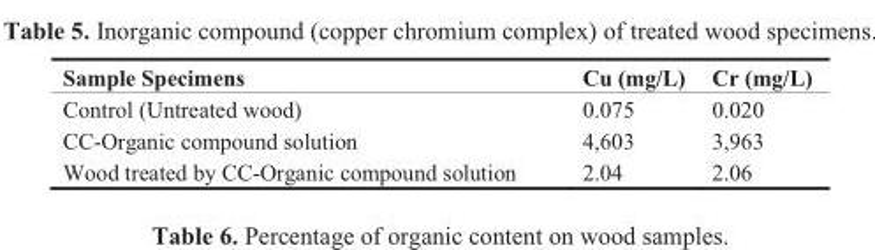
<table><thead><tr><td>Sample Specimens</td><td>Cu (mg/L)</td><td>Cr (mg/L)</td></tr></thead><tbody><tr><td>Control (Untreated wood)</td><td>0.075</td><td>0.020</td></tr><tr><td>CC-Organic compound solution</td><td>4,603</td><td>3,963</td></tr><tr><td>Wood treated by CC-Organic compound solution</td><td>2.04</td><td>2.06</td></tr></tbody></table>